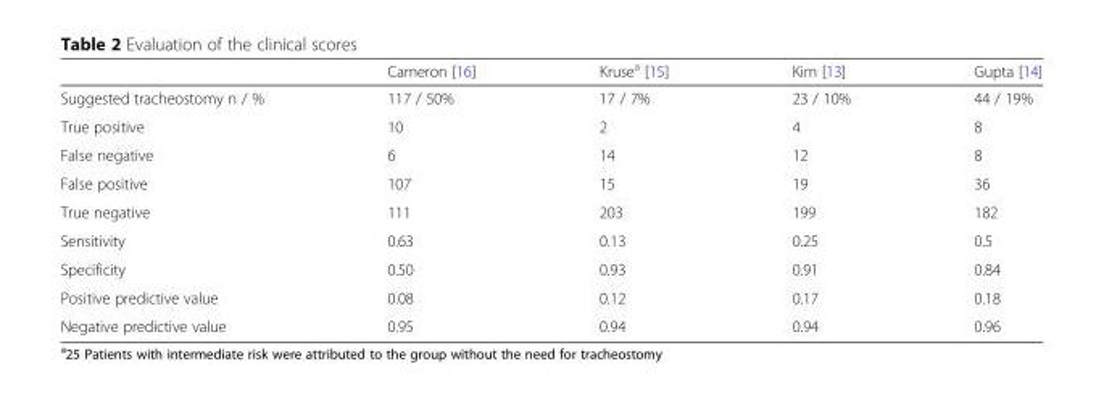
<table><thead><tr><td></td><td>Cameron [16]</td><td>Kruse<sup>a</sup> [15]</td><td>Kim [13]</td><td>Gupta [14]</td></tr></thead><tbody><tr><td>Suggested tracheostomy n / %</td><td>117 / 50%</td><td>17 / 7%</td><td>23 / 10%</td><td>44 / 19%</td></tr><tr><td>True positive</td><td>10</td><td>2</td><td>4</td><td>8</td></tr><tr><td>False negative</td><td>6</td><td>14</td><td>12</td><td>8</td></tr><tr><td>False positive</td><td>107</td><td>15</td><td>19</td><td>36</td></tr><tr><td>True negative</td><td>111</td><td>203</td><td>199</td><td>182</td></tr><tr><td>Sensitivity</td><td>0.63</td><td>0.13</td><td>0.25</td><td>0.5</td></tr><tr><td>Specificity</td><td>0.50</td><td>0.93</td><td>0.91</td><td>0.84</td></tr><tr><td>Positive predictive value</td><td>0.08</td><td>0.12</td><td>0.17</td><td>0.18</td></tr><tr><td>Negative predictive value</td><td>0.95</td><td>0.94</td><td>0.94</td><td>0.96</td></tr></tbody></table>